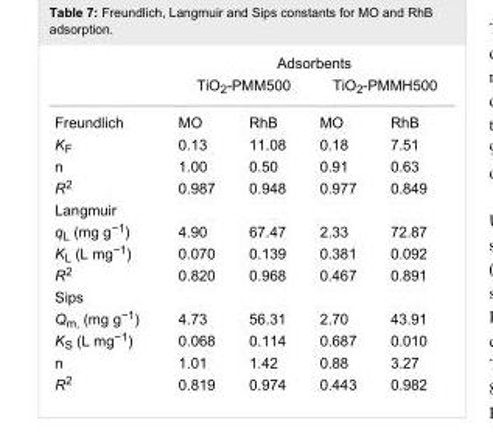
<table><thead><tr><td rowspan="3">Freundlich</td><td colspan="4">Adsorbents</td></tr><tr><td colspan="2">TiO<sub>2</sub>-PMM500</td><td colspan="2">TiO<sub>2</sub>-PMMН500</td></tr><tr><td>MO</td><td>RhB</td><td>MO</td><td>RhB</td></tr></thead><tbody><tr><td>K<sub>F</sub></td><td>0.13</td><td>11.08</td><td>0.18</td><td>7.51</td></tr><tr><td>n</td><td>1.00</td><td>0.50</td><td>0.91</td><td>0.63</td></tr><tr><td>R<sup>2</sup></td><td>0.987</td><td>0.948</td><td>0.977</td><td>0.849</td></tr><tr><td colspan="5">Langmuir</td></tr><tr><td>q<sub>L</sub> (mg g<sup>−1</sup>)</td><td>4.90</td><td>67.47</td><td>2.33</td><td>72.87</td></tr><tr><td>K<sub>L</sub> (L mg<sup>−1</sup>)</td><td>0.070</td><td>0.139</td><td>0.381</td><td>0.092</td></tr><tr><td>R<sup>2</sup></td><td>0.820</td><td>0.968</td><td>0.467</td><td>0.891</td></tr><tr><td colspan="5">Sips</td></tr><tr><td>Q<sub>m,</sub> (mg g<sup>−1</sup>)</td><td>4.73</td><td>56.31</td><td>2.70</td><td>43.91</td></tr><tr><td>K<sub>S</sub> (L mg<sup>−1</sup>)</td><td>0.068</td><td>0.114</td><td>0.687</td><td>0.010</td></tr><tr><td>n</td><td>1.01</td><td>1.42</td><td>0.88</td><td>3.27</td></tr><tr><td>R<sup>2</sup></td><td>0.819</td><td>0.974</td><td>0.443</td><td>0.982</td></tr></tbody></table>